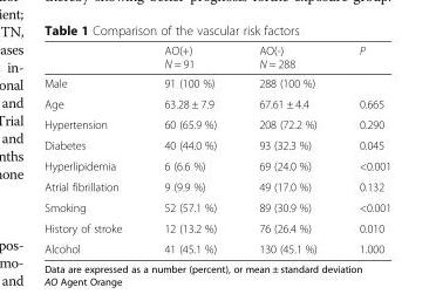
<table><thead><tr><td></td><td>AO(+) N = 91</td><td>AO(-) N = 288</td><td>P</td></tr></thead><tbody><tr><td>Male</td><td>91 (100 %)</td><td>288 (100 %)</td><td></td></tr><tr><td>Age</td><td>63.28 ± 7.9</td><td>67.61 ± 4.4</td><td>0.665</td></tr><tr><td>Hypertension</td><td>60 (65.9 %)</td><td>208 (72.2 %)</td><td>0.290</td></tr><tr><td>Diabetes</td><td>40 (44.0 %)</td><td>93 (32.3 %)</td><td>0.045</td></tr><tr><td>Hyperlipidemia</td><td>6 (6.6 %)</td><td>69 (24.0 %)</td><td>&lt;0.001</td></tr><tr><td>Atrial fibrillation</td><td>9 (9.9 %)</td><td>49 (17.0 %)</td><td>0.132</td></tr><tr><td>Smoking</td><td>52 (57.1 %)</td><td>89 (30.9 %)</td><td>&lt;0.001</td></tr><tr><td>History of stroke</td><td>12 (13.2 %)</td><td>76 (26.4 %)</td><td>0.010</td></tr><tr><td>Alcohol</td><td>41 (45.1 %)</td><td>130 (45.1 %)</td><td>1.000</td></tr></tbody></table>